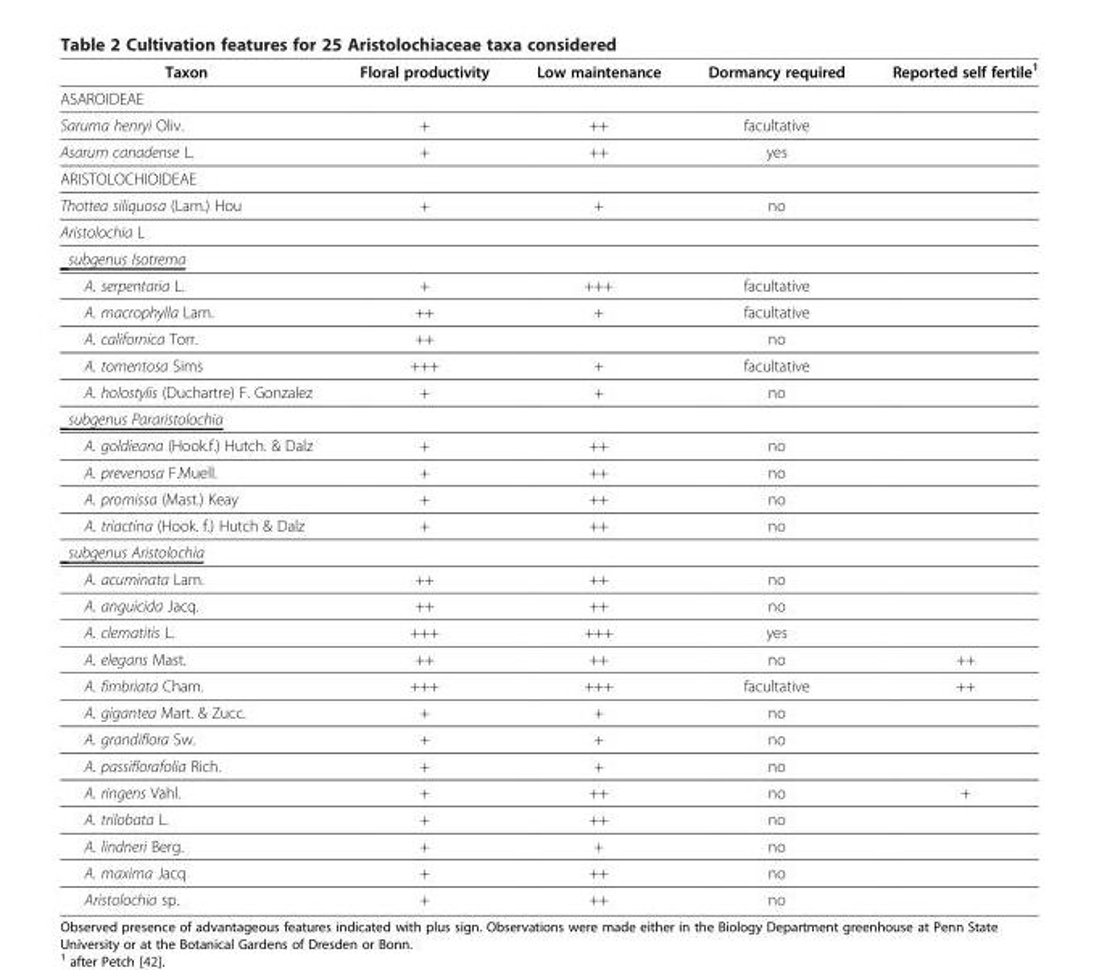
<table><thead><tr><td>Taxon</td><td>Floral productivity</td><td>Low maintenance</td><td>Dormancy required</td><td>Reported self fertile<sup>1</sup></td></tr></thead><tbody><tr><td colspan="5">ASAROIDEAE</td></tr><tr><td>Saruma henryi Oliv.</td><td>+</td><td>++</td><td>facultative</td><td></td></tr><tr><td>Asarum canadense L.</td><td>+</td><td>++</td><td>yes</td><td></td></tr><tr><td colspan="5">ARISTOLOCHIOIDEAE</td></tr><tr><td>Thottea siliquosa (Lam.) Hou</td><td>+</td><td>+</td><td>no</td><td></td></tr><tr><td colspan="5">Aristolochia L</td></tr><tr><td colspan="5">subgenus Isotrema</td></tr><tr><td>A. serpentaria L.</td><td>+</td><td>+++</td><td>facultative</td><td></td></tr><tr><td>A. macrophylla Lam.</td><td>++</td><td>+</td><td>facultative</td><td></td></tr><tr><td>A. californica Torr.</td><td>++</td><td></td><td>no</td><td></td></tr><tr><td>A. tomentosa Sims</td><td>+++</td><td>+</td><td>facultative</td><td></td></tr><tr><td>A. holostylis (Duchartre) F. Gonzalez</td><td>+</td><td>+</td><td>no</td><td></td></tr><tr><td colspan="5">subgenus Pararistolochia</td></tr><tr><td>A. goldieana (Hook.f.) Hutch. &amp; Dalz</td><td>+</td><td>++</td><td>no</td><td></td></tr><tr><td>A. prevenosa F.Muell.</td><td>+</td><td>++</td><td>no</td><td></td></tr><tr><td>A. promissa (Mast.) Keay</td><td>+</td><td>++</td><td>no</td><td></td></tr><tr><td>A. triactina (Hook. f.) Hutch &amp; Dalz</td><td>+</td><td>++</td><td>no</td><td></td></tr><tr><td colspan="5">subgenus Aristolochia</td></tr><tr><td>A. acuminata Lam.</td><td>++</td><td>++</td><td>no</td><td></td></tr><tr><td>A. anguicida Jacq.</td><td>++</td><td>++</td><td>no</td><td></td></tr><tr><td>A. clematitis L.</td><td>+++</td><td>+++</td><td>yes</td><td></td></tr><tr><td>A. elegans Mast.</td><td>++</td><td>++</td><td>no</td><td>++</td></tr><tr><td>A. fimbriata Cham.</td><td>+++</td><td>+++</td><td>facultative</td><td>++</td></tr><tr><td>A. gigantea Mart. &amp; Zucc.</td><td>+</td><td>+</td><td>no</td><td></td></tr><tr><td>A. grandiflora Sw.</td><td>+</td><td>+</td><td>no</td><td></td></tr><tr><td>A. passiflorafolia Rich.</td><td>+</td><td>+</td><td>no</td><td></td></tr><tr><td>A. ringens Vahl.</td><td>+</td><td>++</td><td>no</td><td>+</td></tr><tr><td>A. trilobata L.</td><td>+</td><td>++</td><td>no</td><td></td></tr><tr><td>A. lindneri Berg.</td><td>+</td><td>+</td><td>no</td><td></td></tr><tr><td>A. maxima Jacq</td><td>+</td><td>++</td><td>no</td><td></td></tr><tr><td>Aristolochia sp.</td><td>+</td><td>++</td><td>no</td><td></td></tr></tbody></table>